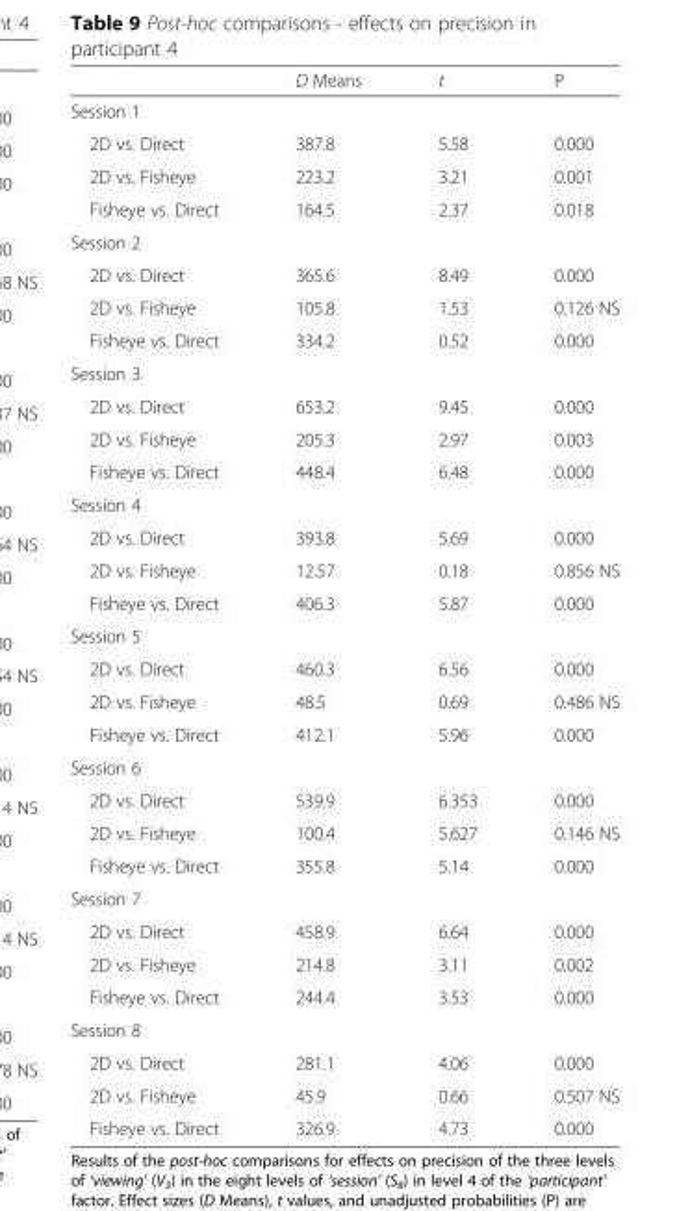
<table><thead><tr><td></td><td>D Means</td><td>t</td><td>P</td></tr></thead><tbody><tr><td colspan="4">Session 1</td></tr><tr><td>2D vs. Direct</td><td>387.8</td><td>5.58</td><td>0.000</td></tr><tr><td>2D vs. Fisheye</td><td>223.2</td><td>3.21</td><td>0.001</td></tr><tr><td>Fisheye vs. Direct</td><td>164.5</td><td>2.37</td><td>0.018</td></tr><tr><td colspan="4">Session 2</td></tr><tr><td>2D vs. Direct</td><td>365.6</td><td>8.49</td><td>0.000</td></tr><tr><td>2D vs. Fisheye</td><td>105.8</td><td>1.53</td><td>0.126 NS</td></tr><tr><td>Fisheye vs. Direct</td><td>334.2</td><td>0.52</td><td>0.000</td></tr><tr><td colspan="4">Session 3</td></tr><tr><td>2D vs. Direct</td><td>653.2</td><td>9.45</td><td>0.000</td></tr><tr><td>2D vs. Fisheye</td><td>205.3</td><td>2.97</td><td>0.003</td></tr><tr><td>Fisheye vs. Direct</td><td>448.4</td><td>6.48</td><td>0.000</td></tr><tr><td colspan="4">Session 4</td></tr><tr><td>2D vs. Direct</td><td>393.8</td><td>5.69</td><td>0.000</td></tr><tr><td>2D vs. Fisheye</td><td>12.57</td><td>0.18</td><td>0.856 NS</td></tr><tr><td>Fisheye vs. Direct</td><td>406.3</td><td>5.87</td><td>0.000</td></tr><tr><td colspan="4">Session 5</td></tr><tr><td>2D vs. Direct</td><td>460.3</td><td>6.56</td><td>0.000</td></tr><tr><td>2D vs. Fisheye</td><td>48.5</td><td>0.69</td><td>0.486 NS</td></tr><tr><td>Fisheye vs. Direct</td><td>412.1</td><td>5.96</td><td>0.000</td></tr><tr><td colspan="4">Session 6</td></tr><tr><td>2D vs. Direct</td><td>539.9</td><td>6.353</td><td>0.000</td></tr><tr><td>2D vs. Fisheye</td><td>100.4</td><td>5.627</td><td>0.146 NS</td></tr><tr><td>Fisheye vs. Direct</td><td>355.8</td><td>5.14</td><td>0.000</td></tr><tr><td colspan="4">Session 7</td></tr><tr><td>2D vs. Direct</td><td>458.9</td><td>6.64</td><td>0.000</td></tr><tr><td>2D vs. Fisheye</td><td>214.8</td><td>3.11</td><td>0.002</td></tr><tr><td>Fisheye vs. Direct</td><td>244.4</td><td>3.53</td><td>0.000</td></tr><tr><td colspan="4">Session 8</td></tr><tr><td>2D vs. Direct</td><td>281.1</td><td>4.06</td><td>0.000</td></tr><tr><td>2D vs. Fisheye</td><td>45.9</td><td>0.66</td><td>0.507 NS</td></tr><tr><td>Fisheye vs. Direct</td><td>326.9</td><td>4.73</td><td>0.000</td></tr></tbody></table>